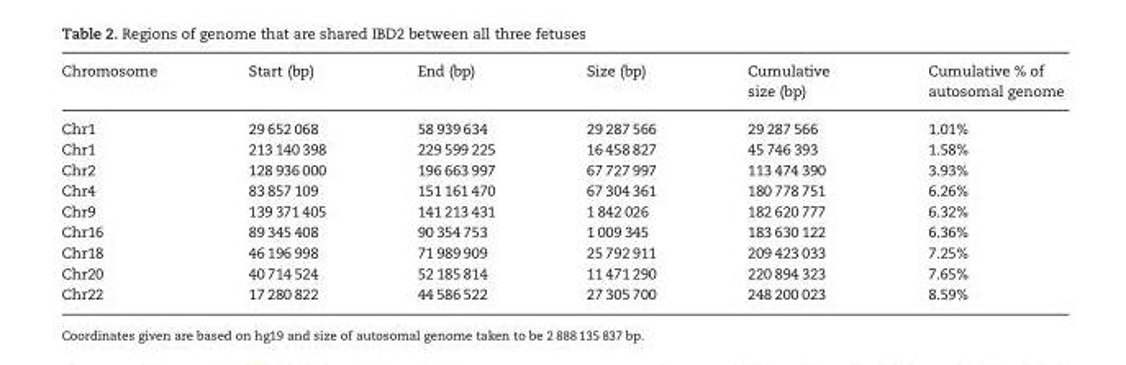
<table><thead><tr><td>Chromosome</td><td>Start (bp)</td><td>End (bp)</td><td>Size (bp)</td><td>Cumulative size (bp)</td><td>Cumulative % of autosomal genome</td></tr></thead><tbody><tr><td>Chr1</td><td>29 652 068</td><td>58 939 634</td><td>29 287 566</td><td>29 287 566</td><td>1.01%</td></tr><tr><td>Chr1</td><td>213 140 398</td><td>229 599 225</td><td>16 458 827</td><td>45 746 393</td><td>1.58%</td></tr><tr><td>Chr2</td><td>128 936 000</td><td>196 663 997</td><td>67 727 997</td><td>113 474 390</td><td>3.93%</td></tr><tr><td>Chr4</td><td>83 857 109</td><td>151 161 470</td><td>67 304 361</td><td>180 778 751</td><td>6.26%</td></tr><tr><td>Chr9</td><td>139 371 405</td><td>141 213 431</td><td>1 842 026</td><td>182 620 777</td><td>6.32%</td></tr><tr><td>Chr16</td><td>89 345 408</td><td>90 354 753</td><td>1 009 345</td><td>183 630 122</td><td>6.36%</td></tr><tr><td>Chr18</td><td>46 196 998</td><td>71 989 909</td><td>25 792 911</td><td>209 423 033</td><td>7.25%</td></tr><tr><td>Chr20</td><td>40 714 524</td><td>52 185 814</td><td>11 471 290</td><td>220 894 323</td><td>7.65%</td></tr><tr><td>Chr22</td><td>17 280 822</td><td>44 586 522</td><td>27 305 700</td><td>248 200 023</td><td>8.59%</td></tr></tbody></table>